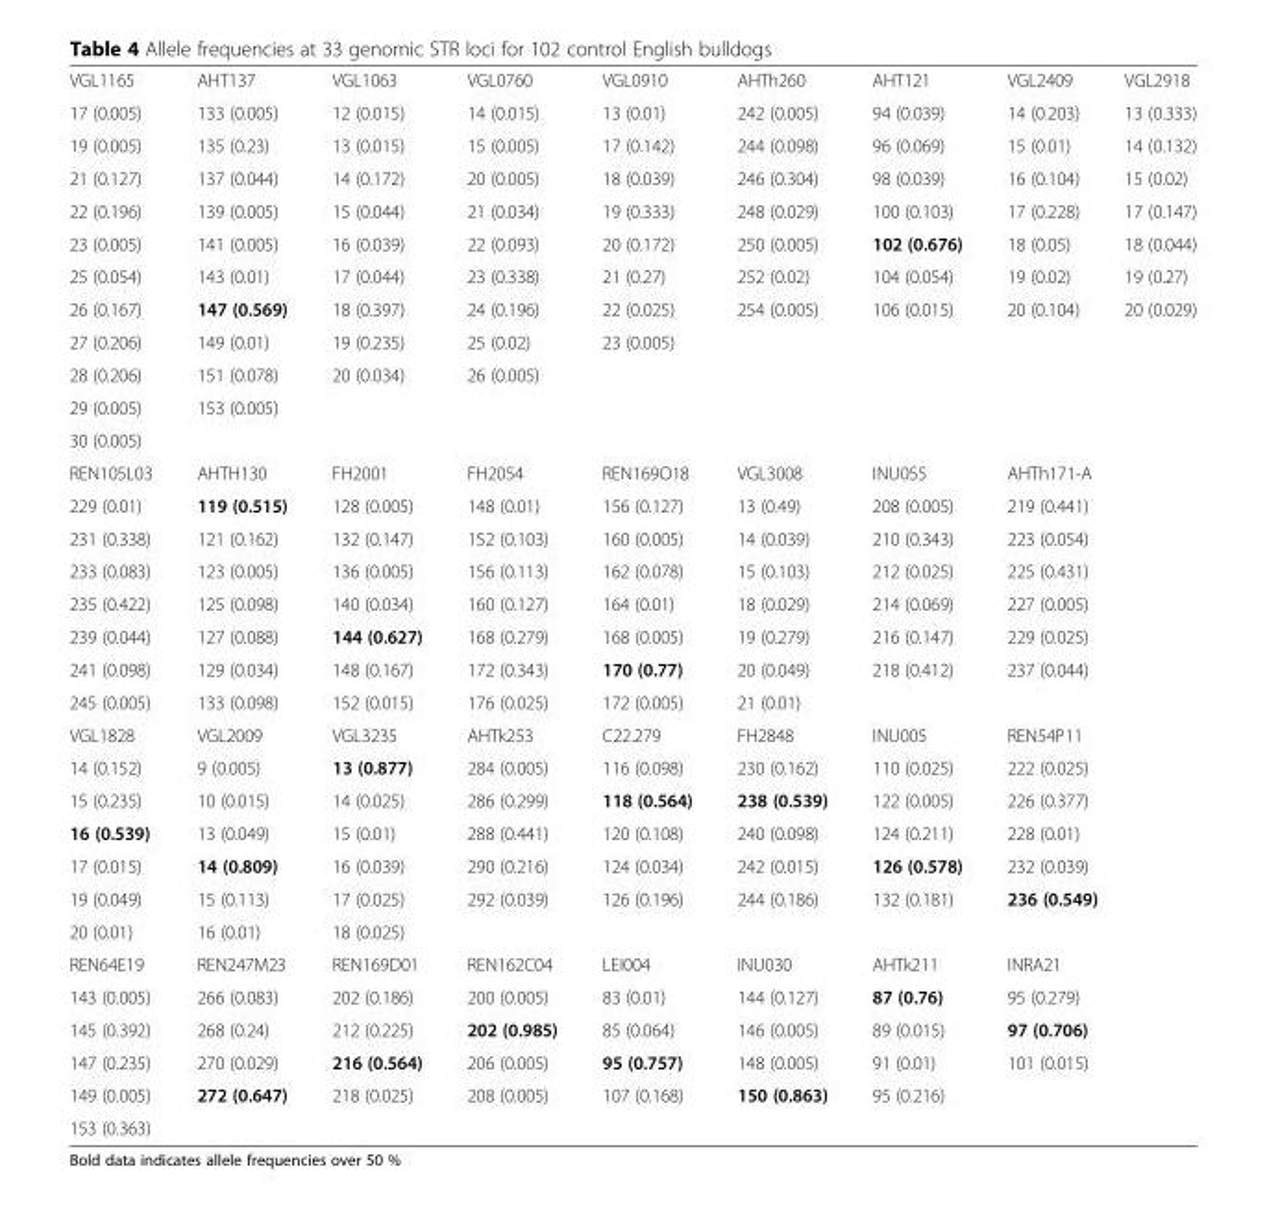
<table><tbody><tr><td>VGL1165</td><td>AHT137</td><td>VGL1063</td><td>VGL0760</td><td>VGL0910</td><td>AHTh260</td><td>AHT121</td><td>VGL2409</td><td>VGL2918</td></tr><tr><td>17 (0.005)</td><td>133 (0.005)</td><td>12 (0.015)</td><td>14 (0.015)</td><td>13 (0.01)</td><td>242 (0.005)</td><td>94 (0.039)</td><td>14 (0.203)</td><td>13 (0.333)</td></tr><tr><td>19 (0.005)</td><td>135 (0.23)</td><td>13 (0.015)</td><td>15 (0.005)</td><td>17 (0.142)</td><td>244 (0.098)</td><td>96 (0.069)</td><td>15 (0.01)</td><td>14 (0.132)</td></tr><tr><td>21 (0.127)</td><td>137 (0.044)</td><td>14 (0.172)</td><td>20 (0.005)</td><td>18 (0.039)</td><td>246 (0.304)</td><td>98 (0.039)</td><td>16 (0.104)</td><td>15 (0.02)</td></tr><tr><td>22 (0.196)</td><td>139 (0.005)</td><td>15 (0.044)</td><td>21 (0.034)</td><td>19 (0.333)</td><td>248 (0.029)</td><td>100 (0.103)</td><td>17 (0.228)</td><td>17 (0.147)</td></tr><tr><td>23 (0.005)</td><td>141 (0.005)</td><td>16 (0.039)</td><td>22 (0.093)</td><td>20 (0.172)</td><td>250 (0.005)</td><td>102 (0.676)</td><td>18 (0.05)</td><td>18 (0.044)</td></tr><tr><td>25 (0.054)</td><td>143 (0.01)</td><td>17 (0.044)</td><td>23 (0.338)</td><td>21 (0.27)</td><td>252 (0.02)</td><td>104 (0.054)</td><td>19 (0.02)</td><td>19 (0.27)</td></tr><tr><td>26 (0.167)</td><td>147 (0.569)</td><td>18 (0.397)</td><td>24 (0.196)</td><td>22 (0.025)</td><td>254 (0.005)</td><td>106 (0.015)</td><td>20 (0.104)</td><td>20 (0.029)</td></tr><tr><td>27 (0.206)</td><td>149 (0.01)</td><td>19 (0.235)</td><td>25 (0.02)</td><td>23 (0.005)</td><td></td><td></td><td></td><td></td></tr><tr><td>28 (0.206)</td><td>151 (0.078)</td><td>20 (0.034)</td><td>26 (0.005)</td><td></td><td></td><td></td><td></td><td></td></tr><tr><td>29 (0.005)</td><td>153 (0.005)</td><td></td><td></td><td></td><td></td><td></td><td></td><td></td></tr><tr><td colspan="9">30 (0.005)</td></tr><tr><td>REN105L03</td><td>AHTH130</td><td>FH2001</td><td>FH2054</td><td>REN169O18</td><td>VGL3008</td><td>INU055</td><td colspan="2">AHTh171-A</td></tr><tr><td>229 (0.01)</td><td>119 (0.515)</td><td>128 (0.005)</td><td>148 (0.01)</td><td>156 (0.127)</td><td>13 (0.49)</td><td>208 (0.005)</td><td colspan="2">219 (0.441)</td></tr><tr><td>231 (0.338)</td><td>121 (0.162)</td><td>132 (0.147)</td><td>152 (0.103)</td><td>160 (0.005)</td><td>14 (0.039)</td><td>210 (0.343)</td><td colspan="2">223 (0.054)</td></tr><tr><td>233 (0.083)</td><td>123 (0.005)</td><td>136 (0.005)</td><td>156 (0.113)</td><td>162 (0.078)</td><td>15 (0.103)</td><td>212 (0.025)</td><td colspan="2">225 (0.431)</td></tr><tr><td>235 (0.422)</td><td>125 (0.098)</td><td>140 (0.034)</td><td>160 (0.127)</td><td>164 (0.01)</td><td>18 (0.029)</td><td>214 (0.069)</td><td colspan="2">227 (0.005)</td></tr><tr><td>239 (0.044)</td><td>127 (0.088)</td><td>144 (0.627)</td><td>168 (0.279)</td><td>168 (0.005)</td><td>19 (0.279)</td><td>216 (0.147)</td><td colspan="2">229 (0.025)</td></tr><tr><td>241 (0.098)</td><td>129 (0.034)</td><td>148 (0.167)</td><td>172 (0.343)</td><td>170 (0.77)</td><td>20 (0.049)</td><td>218 (0.412)</td><td colspan="2">237 (0.044)</td></tr><tr><td>245 (0.005)</td><td>133 (0.098)</td><td>152 (0.015)</td><td>176 (0.025)</td><td>172 (0.005)</td><td>21 (0.01)</td><td></td><td colspan="2"></td></tr><tr><td>VGL1828</td><td>VGL2009</td><td>VGL3235</td><td>AHTk253</td><td>C22.279</td><td>FH2848</td><td>INU005</td><td colspan="2">REN54P11</td></tr><tr><td>14 (0.152)</td><td>9 (0.005)</td><td>13 (0.877)</td><td>284 (0.005)</td><td>116 (0.098)</td><td>230 (0.162)</td><td>110 (0.025)</td><td colspan="2">222 (0.025)</td></tr><tr><td>15 (0.235)</td><td>10 (0.015)</td><td>14 (0.025)</td><td>286 (0.299)</td><td>118 (0.564)</td><td>238 (0.539)</td><td>122 (0.005)</td><td colspan="2">226 (0.377)</td></tr><tr><td>16 (0.539)</td><td>13 (0.049)</td><td>15 (0.01)</td><td>288 (0.441)</td><td>120 (0.108)</td><td>240 (0.098)</td><td>124 (0.211)</td><td colspan="2">228 (0.01)</td></tr><tr><td>17 (0.015)</td><td>14 (0.809)</td><td>16 (0.039)</td><td>290 (0.216)</td><td>124 (0.034)</td><td>242 (0.015)</td><td>126 (0.578)</td><td colspan="2">232 (0.039)</td></tr><tr><td>19 (0.049)</td><td>15 (0.113)</td><td>17 (0.025)</td><td>292 (0.039)</td><td>126 (0.196)</td><td>244 (0.186)</td><td>132 (0.181)</td><td colspan="2">236 (0.549)</td></tr><tr><td>20 (0.01)</td><td>16 (0.01)</td><td>18 (0.025)</td><td></td><td></td><td></td><td></td><td colspan="2"></td></tr><tr><td>REN64E19</td><td>REN247M23</td><td>REN169D01</td><td>REN162C04</td><td>LEI004</td><td>INU030</td><td>AHTk211</td><td colspan="2">INRA21</td></tr><tr><td>143 (0.005)</td><td>266 (0.083)</td><td>202 (0.186)</td><td>200 (0.005)</td><td>83 (0.01)</td><td>144 (0.127)</td><td>87 (0.76)</td><td colspan="2">95 (0.279)</td></tr><tr><td>145 (0.392)</td><td>268 (0.24)</td><td>212 (0.225)</td><td>202 (0.985)</td><td>85 (0.064)</td><td>146 (0.005)</td><td>89 (0.015)</td><td colspan="2">97 (0.706)</td></tr><tr><td>147 (0.235)</td><td>270 (0.029)</td><td>216 (0.564)</td><td>206 (0.005)</td><td>95 (0.757)</td><td>148 (0.005)</td><td>91 (0.01)</td><td colspan="2">101 (0.015)</td></tr><tr><td>149 (0.005)</td><td>272 (0.647)</td><td>218 (0.025)</td><td>208 (0.005)</td><td>107 (0.168)</td><td>150 (0.863)</td><td>95 (0.216)</td><td colspan="2"></td></tr><tr><td>153 (0.363)</td><td></td><td></td><td></td><td></td><td></td><td></td><td colspan="2"></td></tr></tbody></table>